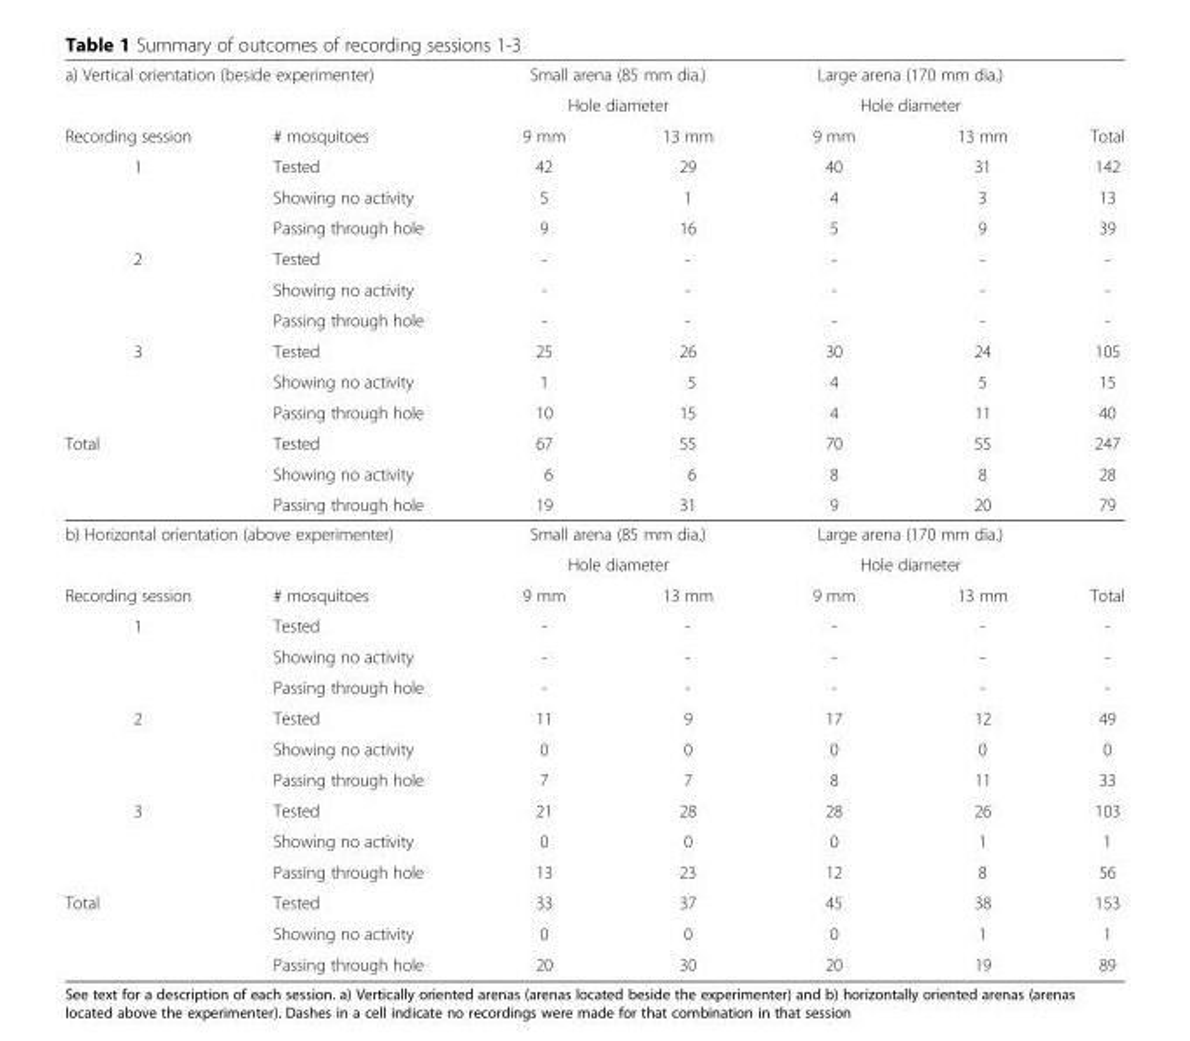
<table><tbody><tr><td colspan="2">a) Vertical orientation (beside experimenter)</td><td colspan="2">Small arena (85 mm dia.)</td><td colspan="2">Large arena (170 mm dia.)</td><td></td></tr><tr><td></td><td></td><td colspan="2">Hole diameter</td><td colspan="2">Hole diameter</td><td></td></tr><tr><td>Recording session</td><td># mosquitoes</td><td>9 mm</td><td>13 mm</td><td>9 mm</td><td>13 mm</td><td>Total</td></tr><tr><td rowspan="3">1</td><td>Tested</td><td>42</td><td>29</td><td>40</td><td>31</td><td>142</td></tr><tr><td>Showing no activity</td><td>5</td><td>1</td><td>4</td><td>3</td><td>13</td></tr><tr><td>Passing through hole</td><td>9</td><td>16</td><td>5</td><td>9</td><td>39</td></tr><tr><td rowspan="3">2</td><td>Tested</td><td>-</td><td>-</td><td>-</td><td>-</td><td>-</td></tr><tr><td>Showing no activity</td><td>-</td><td>-</td><td>-</td><td>-</td><td>-</td></tr><tr><td>Passing through hole</td><td>-</td><td>-</td><td>-</td><td>-</td><td>-</td></tr><tr><td rowspan="3">3</td><td>Tested</td><td>25</td><td>26</td><td>30</td><td>24</td><td>105</td></tr><tr><td>Showing no activity</td><td>1</td><td>5</td><td>4</td><td>5</td><td>15</td></tr><tr><td>Passing through hole</td><td>10</td><td>15</td><td>4</td><td>11</td><td>40</td></tr><tr><td rowspan="3">Total</td><td>Tested</td><td>67</td><td>55</td><td>70</td><td>55</td><td>247</td></tr><tr><td>Showing no activity</td><td>6</td><td>6</td><td>8</td><td>8</td><td>28</td></tr><tr><td>Passing through hole</td><td>19</td><td>31</td><td>9</td><td>20</td><td>79</td></tr><tr><td colspan="2">b) Horizontal orientation (above experimenter)</td><td colspan="2">Small arena (85 mm dia.)</td><td colspan="2">Large arena (170 mm dia.)</td><td></td></tr><tr><td></td><td></td><td colspan="2">Hole diameter</td><td colspan="2">Hole diameter</td><td></td></tr><tr><td>Recording session</td><td># mosquitoes</td><td>9 mm</td><td>13 mm</td><td>9 mm</td><td>13 mm</td><td>Total</td></tr><tr><td rowspan="3">1</td><td>Tested</td><td>-</td><td>-</td><td>-</td><td>-</td><td>-</td></tr><tr><td>Showing no activity</td><td>-</td><td>-</td><td>-</td><td>-</td><td>-</td></tr><tr><td>Passing through hole</td><td>-</td><td>-</td><td>-</td><td>-</td><td>-</td></tr><tr><td rowspan="3">2</td><td>Tested</td><td>11</td><td>9</td><td>17</td><td>12</td><td>49</td></tr><tr><td>Showing no activity</td><td>0</td><td>0</td><td>0</td><td>0</td><td>0</td></tr><tr><td>Passing through hole</td><td>7</td><td>7</td><td>8</td><td>11</td><td>33</td></tr><tr><td rowspan="3">3</td><td>Tested</td><td>21</td><td>28</td><td>28</td><td>26</td><td>103</td></tr><tr><td>Showing no activity</td><td>0</td><td>0</td><td>0</td><td>1</td><td>1</td></tr><tr><td>Passing through hole</td><td>13</td><td>23</td><td>12</td><td>8</td><td>56</td></tr><tr><td rowspan="3">Total</td><td>Tested</td><td>33</td><td>37</td><td>45</td><td>38</td><td>153</td></tr><tr><td>Showing no activity</td><td>0</td><td>0</td><td>0</td><td>1</td><td>1</td></tr><tr><td>Passing through hole</td><td>20</td><td>30</td><td>20</td><td>19</td><td>89</td></tr></tbody></table>